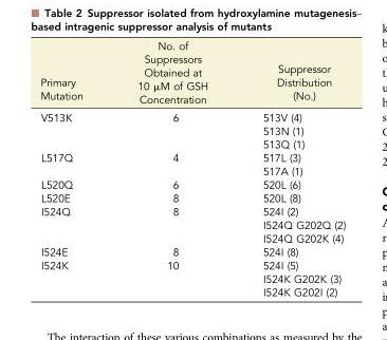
<table><thead><tr><td>Primary Mutation</td><td>No. of Suppressors Obtained at 10 µM of GSH Concentration</td><td>Suppressor Distribution (No.)</td></tr></thead><tbody><tr><td rowspan="3">V513K</td><td rowspan="3">6</td><td>513V (4)</td></tr><tr><td>513N (1)</td></tr><tr><td>513Q (1)</td></tr><tr><td rowspan="2">L517Q</td><td rowspan="2">4</td><td>517L (3)</td></tr><tr><td>517A (1)</td></tr><tr><td>L520Q</td><td>6</td><td>520L (6)</td></tr><tr><td>L520E</td><td>8</td><td>520L (8)</td></tr><tr><td rowspan="3">I524Q</td><td rowspan="3">8</td><td>524I (2)</td></tr><tr><td>I524Q G202Q (2)</td></tr><tr><td>I524Q G202K (4)</td></tr><tr><td>I524E</td><td>8</td><td>524I (8)</td></tr><tr><td rowspan="3">I524K</td><td rowspan="3">10</td><td>524I (5)</td></tr><tr><td>I524K G202K (3)</td></tr><tr><td>I524K G202I (2)</td></tr></tbody></table>